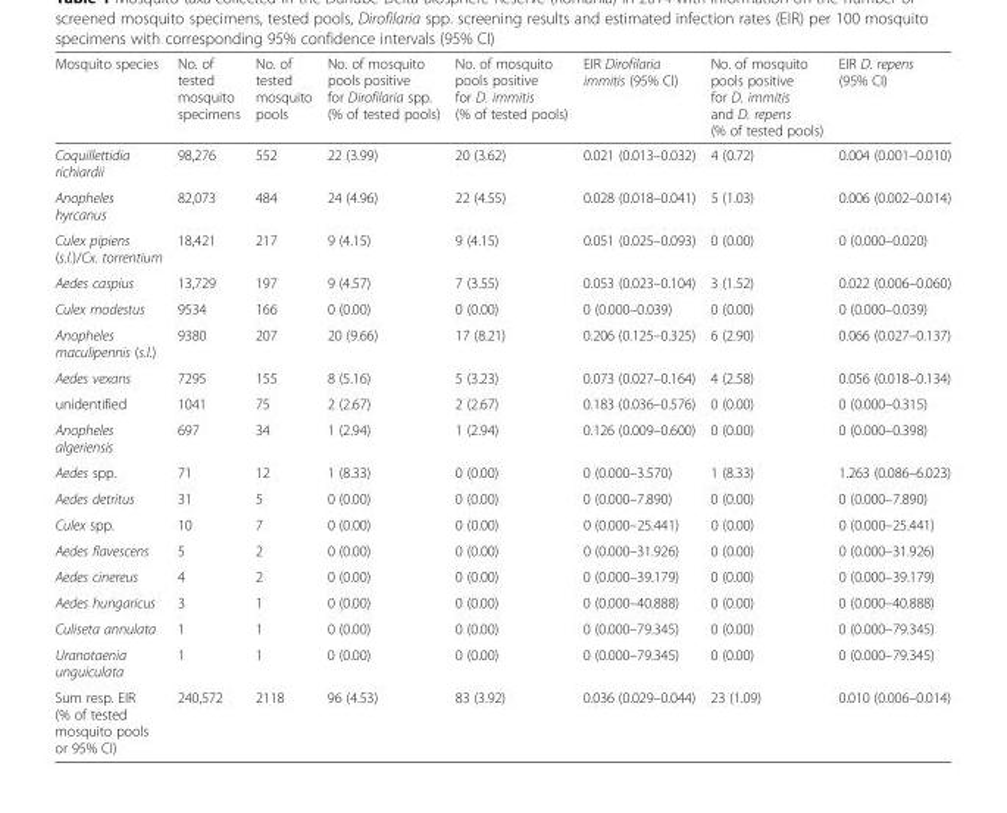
<table><thead><tr><td>Mosquito species</td><td>No. of tested mosquito specimens</td><td>No. of tested mosquito pools</td><td>No. of mosquito pools positive for Dirofilaria spp. (% of tested pools)</td><td>No. of mosquito pools positive for D. immitis (% of tested pools)</td><td>EIR Dirofilaria immitis (95% CI)</td><td>No. of mosquito pools positive for D. immitis and D. repens (% of tested pools)</td><td>EIR D. repens (95% CI)</td></tr></thead><tbody><tr><td>Coquillettidia richiardii</td><td>98,276</td><td>552</td><td>22 (3.99)</td><td>20 (3.62)</td><td>0.021 (0.013–0.032)</td><td>4 (0.72)</td><td>0.004 (0.001–0.010)</td></tr><tr><td>Anopheles hyrcanus</td><td>82,073</td><td>484</td><td>24 (4.96)</td><td>22 (4.55)</td><td>0.028 (0.018–0.041)</td><td>5 (1.03)</td><td>0.006 (0.002–0.014)</td></tr><tr><td>Culex pipiens (s.l.)/Cx. torrentium</td><td>18,421</td><td>217</td><td>9 (4.15)</td><td>9 (4.15)</td><td>0.051 (0.025–0.093)</td><td>0 (0.00)</td><td>0 (0.000–0.020)</td></tr><tr><td>Aedes caspius</td><td>13,729</td><td>197</td><td>9 (4.57)</td><td>7 (3.55)</td><td>0.053 (0.023–0.104)</td><td>3 (1.52)</td><td>0.022 (0.006–0.060)</td></tr><tr><td>Culex modestus</td><td>9534</td><td>166</td><td>0 (0.00)</td><td>0 (0.00)</td><td>0 (0.000–0.039)</td><td>0 (0.00)</td><td>0 (0.000–0.039)</td></tr><tr><td>Anopheles maculipennis (s.l.)</td><td>9380</td><td>207</td><td>20 (9.66)</td><td>17 (8.21)</td><td>0.206 (0.125–0.325)</td><td>6 (2.90)</td><td>0.066 (0.027–0.137)</td></tr><tr><td>Aedes vexans</td><td>7295</td><td>155</td><td>8 (5.16)</td><td>5 (3.23)</td><td>0.073 (0.027–0.164)</td><td>4 (2.58)</td><td>0.056 (0.018–0.134)</td></tr><tr><td>unidentified</td><td>1041</td><td>75</td><td>2 (2.67)</td><td>2 (2.67)</td><td>0.183 (0.036–0.576)</td><td>0 (0.00)</td><td>0 (0.000–0.315)</td></tr><tr><td>Anopheles algeriensis</td><td>697</td><td>34</td><td>1 (2.94)</td><td>1 (2.94)</td><td>0.126 (0.009–0.600)</td><td>0 (0.00)</td><td>0 (0.000–0.398)</td></tr><tr><td>Aedes spp.</td><td>71</td><td>12</td><td>1 (8.33)</td><td>0 (0.00)</td><td>0 (0.000–3.570)</td><td>1 (8.33)</td><td>1.263 (0.086–6.023)</td></tr><tr><td>Aedes detritus</td><td>31</td><td>5</td><td>0 (0.00)</td><td>0 (0.00)</td><td>0 (0.000–7.890)</td><td>0 (0.00)</td><td>0 (0.000–7.890)</td></tr><tr><td>Culex spp.</td><td>10</td><td>7</td><td>0 (0.00)</td><td>0 (0.00)</td><td>0 (0.000–25.441)</td><td>0 (0.00)</td><td>0 (0.000–25.441)</td></tr><tr><td>Aedes flavescens</td><td>5</td><td>2</td><td>0 (0.00)</td><td>0 (0.00)</td><td>0 (0.000–31.926)</td><td>0 (0.00)</td><td>0 (0.000–31.926)</td></tr><tr><td>Aedes cinereus</td><td>4</td><td>2</td><td>0 (0.00)</td><td>0 (0.00)</td><td>0 (0.000–39.179)</td><td>0 (0.00)</td><td>0 (0.000–39.179)</td></tr><tr><td>Aedes hungaricus</td><td>3</td><td>1</td><td>0 (0.00)</td><td>0 (0.00)</td><td>0 (0.000–40.888)</td><td>0 (0.00)</td><td>0 (0.000–40.888)</td></tr><tr><td>Culiseta annulata</td><td>1</td><td>1</td><td>0 (0.00)</td><td>0 (0.00)</td><td>0 (0.000–79.345)</td><td>0 (0.00)</td><td>0 (0.000–79.345)</td></tr><tr><td>Uranotaenia unguiculata</td><td>1</td><td>1</td><td>0 (0.00)</td><td>0 (0.00)</td><td>0 (0.000–79.345)</td><td>0 (0.00)</td><td>0 (0.000–79.345)</td></tr><tr><td>Sum resp. EIR (% of tested mosquito pools or 95% CI)</td><td>240,572</td><td>2118</td><td>96 (4.53)</td><td>83 (3.92)</td><td>0.036 (0.029–0.044)</td><td>23 (1.09)</td><td>0.010 (0.006–0.014)</td></tr></tbody></table>